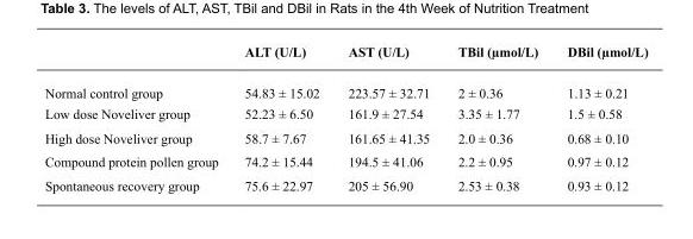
<table><thead><tr><td></td><td>ALT (U/L)</td><td>AST (U/L)</td><td>TBil (µmol/L)</td><td>DBil (µmol/L)</td></tr></thead><tbody><tr><td>Normal control group</td><td>54.83 ± 15.02</td><td>223.57 ± 32.71</td><td>2 ± 0.36</td><td>1.13 ± 0.21</td></tr><tr><td>Low dose Noveliver group</td><td>52.23 ± 6.50</td><td>161.9 ± 27.54</td><td>3.35 ± 1.77</td><td>1.5 ± 0.58</td></tr><tr><td>High dose Noveliver group</td><td>58.7 ± 7.67</td><td>161.65 ± 41.35</td><td>2.0 ± 0.36</td><td>0.68 ± 0.10</td></tr><tr><td>Compound protein pollen group</td><td>74.2 ± 15.44</td><td>194.5 ± 41.06</td><td>2.2 ± 0.95</td><td>0.97 ± 0.12</td></tr><tr><td>Spontaneous recovery group</td><td>75.6 ± 22.97</td><td>205 ± 56.90</td><td>2.53 ± 0.38</td><td>0.93 ± 0.12</td></tr></tbody></table>